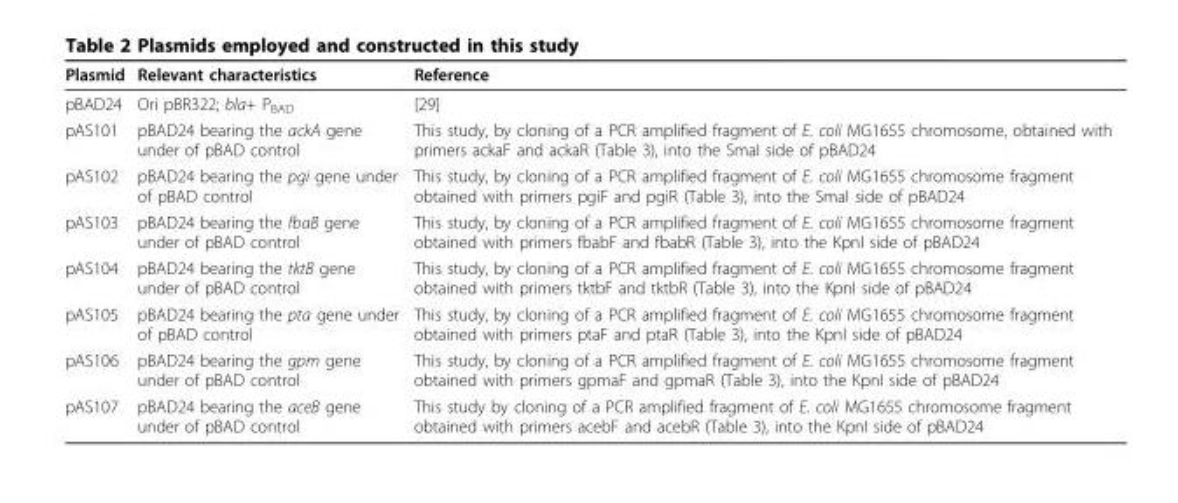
<table><thead><tr><td>Plasmid</td><td>Relevant characteristics</td><td>Reference</td></tr></thead><tbody><tr><td>pBAD24</td><td>Ori pBR322; bla+ P<sub>BAD</sub></td><td>[29]</td></tr><tr><td>pAS101</td><td>pBAD24 bearing the ackA gene under of pBAD control</td><td>This study, by cloning of a PCR amplified fragment of E. coli MG1655 chromosome, obtained with primers ackaF and ackaR (Table 3), into the SmaI side of pBAD24</td></tr><tr><td>pAS102</td><td>pBAD24 bearing the pgi gene under of pBAD control</td><td>This study, by cloning of a PCR amplified fragment of E. coli MG1655 chromosome fragment obtained with primers pgiF and pgiR (Table 3), into the SmaI side of pBAD24</td></tr><tr><td>pAS103</td><td>pBAD24 bearing the fbaB gene under of pBAD control</td><td>This study, by cloning of a PCR amplified fragment of E. coli MG1655 chromosome fragment obtained with primers fbabF and fbabR (Table 3), into the KpnI side of pBAD24</td></tr><tr><td>pAS104</td><td>pBAD24 bearing the tktB gene under of pBAD control</td><td>This study, by cloning of a PCR amplified fragment of E. coli MG1655 chromosome fragment obtained with primers tktbF and tktbR (Table 3), into the KpnI side of pBAD24</td></tr><tr><td>pAS105</td><td>pBAD24 bearing the pta gene under of pBAD control</td><td>This study, by cloning of a PCR amplified fragment of E. coli MG1655 chromosome fragment obtained with primers ptaF and ptaR (Table 3), into the KpnI side of pBAD24</td></tr><tr><td>pAS106</td><td>pBAD24 bearing the gpm gene under of pBAD control</td><td>This study, by cloning of a PCR amplified fragment of E. coli MG1655 chromosome fragment obtained with primers gpmaF and gpmaR (Table 3), into the KpnI side of pBAD24</td></tr><tr><td>pAS107</td><td>pBAD24 bearing the aceB gene under of pBAD control</td><td>This study by cloning of a PCR amplified fragment of E. coli MG1655 chromosome fragment obtained with primers acebF and acebR (Table 3), into the KpnI side of pBAD24</td></tr></tbody></table>